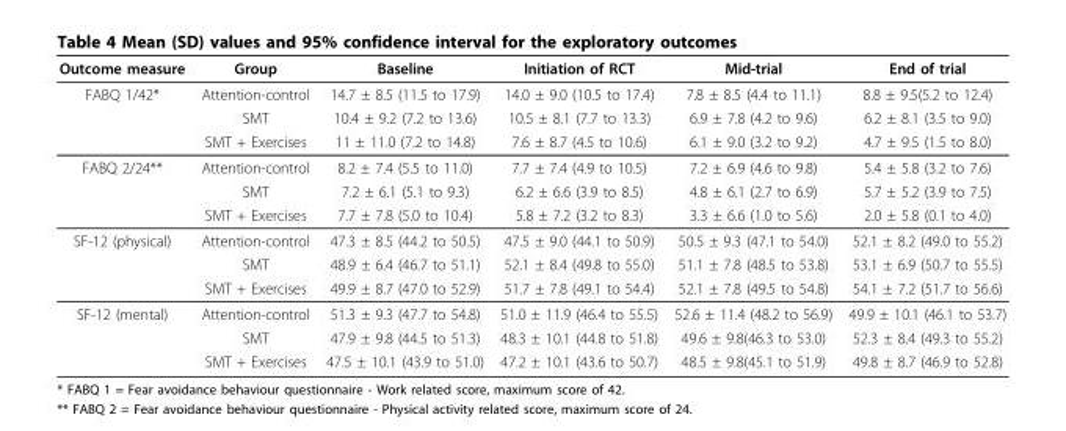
<table><thead><tr><td>Outcome measure</td><td>Group</td><td>Baseline</td><td>Initiation of RCT</td><td>Mid-trial</td><td>End of trial</td></tr></thead><tbody><tr><td rowspan="3">FABQ 1/42*</td><td>Attention-control</td><td>14.7 ± 8.5 (11.5 to 17.9)</td><td>14.0 ± 9.0 (10.5 to 17.4)</td><td>7.8 ± 8.5 (4.4 to 11.1)</td><td>8.8 ± 9.5(5.2 to 12.4)</td></tr><tr><td>SMT</td><td>10.4 ± 9.2 (7.2 to 13.6)</td><td>10.5 ± 8.1 (7.7 to 13.3)</td><td>6.9 ± 7.8 (4.2 to 9.6)</td><td>6.2 ± 8.1 (3.5 to 9.0)</td></tr><tr><td>SMT + Exercises</td><td>11 ± 11.0 (7.2 to 14.8)</td><td>7.6 ± 8.7 (4.5 to 10.6)</td><td>6.1 ± 9.0 (3.2 to 9.2)</td><td>4.7 ± 9.5 (1.5 to 8.0)</td></tr><tr><td rowspan="3">FABQ 2/24**</td><td>Attention-control</td><td>8.2 ± 7.4 (5.5 to 11.0)</td><td>7.7 ± 7.4 (4.9 to 10.5)</td><td>7.2 ± 6.9 (4.6 to 9.8)</td><td>5.4 ± 5.8 (3.2 to 7.6)</td></tr><tr><td>SMT</td><td>7.2 ± 6.1 (5.1 to 9.3)</td><td>6.2 ± 6.6 (3.9 to 8.5)</td><td>4.8 ± 6.1 (2.7 to 6.9)</td><td>5.7 ± 5.2 (3.9 to 7.5)</td></tr><tr><td>SMT + Exercises</td><td>7.7 ± 7.8 (5.0 to 10.4)</td><td>5.8 ± 7.2 (3.2 to 8.3)</td><td>3.3 ± 6.6 (1.0 to 5.6)</td><td>2.0 ± 5.8 (0.1 to 4.0)</td></tr><tr><td rowspan="3">SF-12 (physical)</td><td>Attention-control</td><td>47.3 ± 8.5 (44.2 to 50.5)</td><td>47.5 ± 9.0 (44.1 to 50.9)</td><td>50.5 ± 9.3 (47.1 to 54.0)</td><td>52.1 ± 8.2 (49.0 to 55.2)</td></tr><tr><td>SMT</td><td>48.9 ± 6.4 (46.7 to 51.1)</td><td>52.1 ± 8.4 (49.8 to 55.0)</td><td>51.1 ± 7.8 (48.5 to 53.8)</td><td>53.1 ± 6.9 (50.7 to 55.5)</td></tr><tr><td>SMT + Exercises</td><td>49.9 ± 8.7 (47.0 to 52.9)</td><td>51.7 ± 7.8 (49.1 to 54.4)</td><td>52.1 ± 7.8 (49.5 to 54.8)</td><td>54.1 ± 7.2 (51.7 to 56.6)</td></tr><tr><td rowspan="3">SF-12 (mental)</td><td>Attention-control</td><td>51.3 ± 9.3 (47.7 to 54.8)</td><td>51.0 ± 11.9 (46.4 to 55.5)</td><td>52.6 ± 11.4 (48.2 to 56.9)</td><td>49.9 ± 10.1 (46.1 to 53.7)</td></tr><tr><td>SMT</td><td>47.9 ± 9.8 (44.5 to 51.3)</td><td>48.3 ± 10.1 (44.8 to 51.8)</td><td>49.6 ± 9.8(46.3 to 53.0)</td><td>52.3 ± 8.4 (49.3 to 55.2)</td></tr><tr><td>SMT + Exercises</td><td>47.5 ± 10.1 (43.9 to 51.0)</td><td>47.2 ± 10.1 (43.6 to 50.7)</td><td>48.5 ± 9.8(45.1 to 51.9)</td><td>49.8 ± 8.7 (46.9 to 52.8)</td></tr></tbody></table>